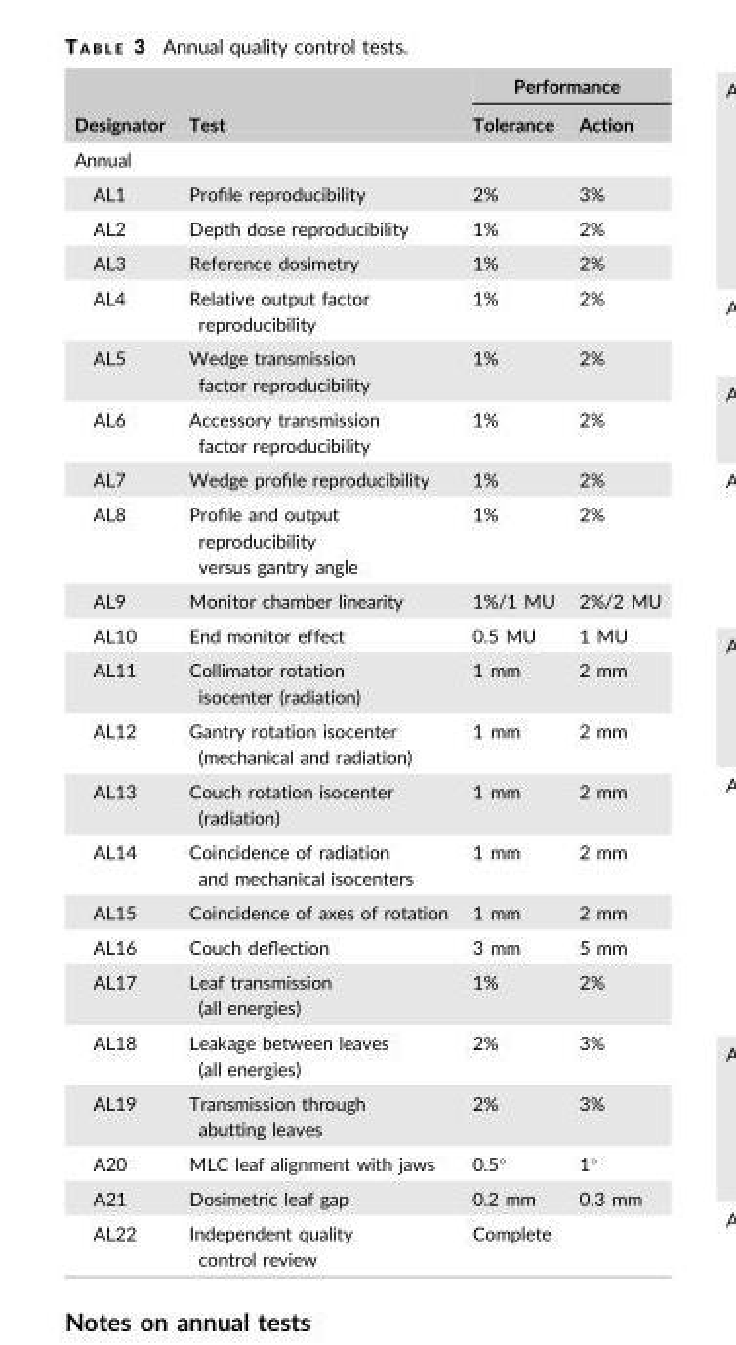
<table><thead><tr><td rowspan="2">Designator</td><td rowspan="2">Test</td><td colspan="2">Performance</td></tr><tr><td>Tolerance</td><td>Action</td></tr></thead><tbody><tr><td colspan="4">Annual</td></tr><tr><td>AL1</td><td>Profile reproducibility</td><td>2%</td><td>3%</td></tr><tr><td>AL2</td><td>Depth dose reproducibility</td><td>1%</td><td>2%</td></tr><tr><td>AL3</td><td>Reference dosimetry</td><td>1%</td><td>2%</td></tr><tr><td>AL4</td><td>Relative output factor reproducibility</td><td>1%</td><td>2%</td></tr><tr><td>AL5</td><td>Wedge transmission factor reproducibility</td><td>1%</td><td>2%</td></tr><tr><td>AL6</td><td>Accessory transmission factor reproducibility</td><td>1%</td><td>2%</td></tr><tr><td>AL7</td><td>Wedge profile reproducibility</td><td>1%</td><td>2%</td></tr><tr><td>AL8</td><td>Profile and output reproducibility versus gantry angle</td><td>1%</td><td>2%</td></tr><tr><td>AL9</td><td>Monitor chamber linearity</td><td>1%/1 MU</td><td>2%/2 MU</td></tr><tr><td>AL10</td><td>End monitor effect</td><td>0.5 MU</td><td>1 MU</td></tr><tr><td>AL11</td><td>Collimator rotation isocenter (radiation)</td><td>1 mm</td><td>2 mm</td></tr><tr><td>AL12</td><td>Gantry rotation isocenter (mechanical and radiation)</td><td>1 mm</td><td>2 mm</td></tr><tr><td>AL13</td><td>Couch rotation isocenter (radiation)</td><td>1 mm</td><td>2 mm</td></tr><tr><td>AL14</td><td>Coincidence of radiation and mechanical isocenters</td><td>1 mm</td><td>2 mm</td></tr><tr><td>AL15</td><td>Coincidence of axes of rotation</td><td>1 mm</td><td>2 mm</td></tr><tr><td>AL16</td><td>Couch deflection</td><td>3 mm</td><td>5 mm</td></tr><tr><td>AL17</td><td>Leaf transmission (all energies)</td><td>1%</td><td>2%</td></tr><tr><td>AL18</td><td>Leakage between leaves (all energies)</td><td>2%</td><td>3%</td></tr><tr><td>AL19</td><td>Transmission through abutting leaves</td><td>2%</td><td>3%</td></tr><tr><td>A20</td><td>MLC leaf alignment with jaws</td><td>0.5°</td><td>1°</td></tr><tr><td>A21</td><td>Dosimetric leaf gap</td><td>0.2 mm</td><td>0.3 mm</td></tr><tr><td>AL22</td><td>Independent quality control review</td><td colspan="2">Complete</td></tr></tbody></table>